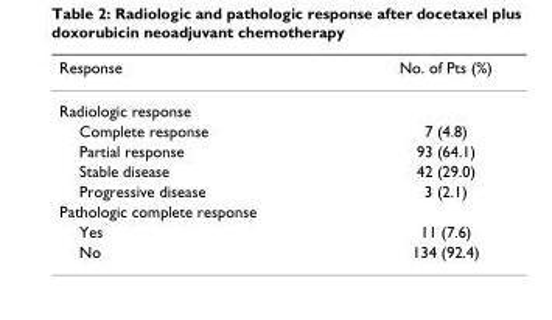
<table><thead><tr><td>Response</td><td>No. of Pts (%)</td></tr></thead><tbody><tr><td colspan="2">Radiologic response</td></tr><tr><td>Complete response</td><td>7 (4.8)</td></tr><tr><td>Partial response</td><td>93 (64.1)</td></tr><tr><td>Stable disease</td><td>42 (29.0)</td></tr><tr><td>Progressive disease</td><td>3 (2.1)</td></tr><tr><td colspan="2">Pathologic complete response</td></tr><tr><td>Yes</td><td>11 (7.6)</td></tr><tr><td>No</td><td>134 (92.4)</td></tr></tbody></table>